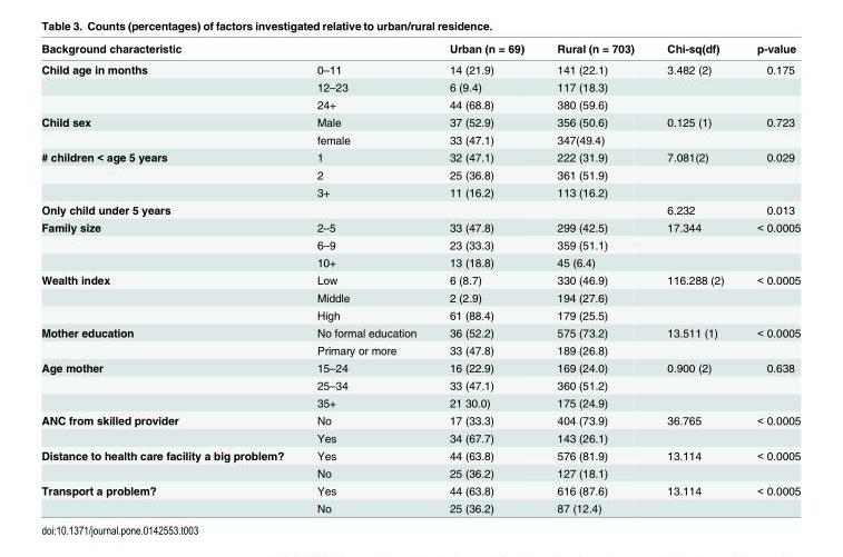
<table><thead><tr><td>Background characteristic</td><td></td><td>Urban (n = 69)</td><td>Rural (n = 703)</td><td>Chi-sq(df)</td><td>p-value</td></tr></thead><tbody><tr><td rowspan="3">Child age in months</td><td>0–11</td><td>14 (21.9)</td><td>141 (22.1)</td><td>3.482 (2)</td><td>0.175</td></tr><tr><td>12–23</td><td>6 (9.4)</td><td>117 (18.3)</td><td></td><td></td></tr><tr><td>24+</td><td>44 (68.8)</td><td>380 (59.6)</td><td></td><td></td></tr><tr><td rowspan="2">Child sex</td><td>Male</td><td>37 (52.9)</td><td>356 (50.6)</td><td>0.125 (1)</td><td>0.723</td></tr><tr><td>female</td><td>33 (47.1)</td><td>347(49.4)</td><td></td><td></td></tr><tr><td rowspan="3"># children &lt; age 5 years</td><td>1</td><td>32 (47.1)</td><td>222 (31.9)</td><td>7.081(2)</td><td>0.029</td></tr><tr><td>2</td><td>25 (36.8)</td><td>361 (51.9)</td><td></td><td></td></tr><tr><td>3+</td><td>11 (16.2)</td><td>113 (16.2)</td><td></td><td></td></tr><tr><td>Only child under 5 years</td><td></td><td></td><td></td><td>6.232</td><td>0.013</td></tr><tr><td rowspan="3">Family size</td><td>2–5</td><td>33 (47.8)</td><td>299 (42.5)</td><td>17.344</td><td>&lt; 0.0005</td></tr><tr><td>6–9</td><td>23 (33.3)</td><td>359 (51.1)</td><td></td><td></td></tr><tr><td>10+</td><td>13 (18.8)</td><td>45 (6.4)</td><td></td><td></td></tr><tr><td rowspan="3">Wealth index</td><td>Low</td><td>6 (8.7)</td><td>330 (46.9)</td><td>116.288 (2)</td><td>&lt; 0.0005</td></tr><tr><td>Middle</td><td>2 (2.9)</td><td>194 (27.6)</td><td></td><td></td></tr><tr><td>High</td><td>61 (88.4)</td><td>179 (25.5)</td><td></td><td></td></tr><tr><td rowspan="2">Mother education</td><td>No formal education</td><td>36 (52.2)</td><td>575 (73.2)</td><td>13.511 (1)</td><td>&lt; 0.0005</td></tr><tr><td>Primary or more</td><td>33 (47.8)</td><td>189 (26.8)</td><td></td><td></td></tr><tr><td rowspan="3">Age mother</td><td>15–24</td><td>16 (22.9)</td><td>169 (24.0)</td><td>0.900 (2)</td><td>0.638</td></tr><tr><td>25–34</td><td>33 (47.1)</td><td>360 (51.2)</td><td></td><td></td></tr><tr><td>35+</td><td>21 30.0)</td><td>175 (24.9)</td><td></td><td></td></tr><tr><td rowspan="2">ANC from skilled provider</td><td>No</td><td>17 (33.3)</td><td>404 (73.9)</td><td>36.765</td><td>&lt; 0.0005</td></tr><tr><td>Yes</td><td>34 (67.7)</td><td>143 (26.1)</td><td></td><td></td></tr><tr><td rowspan="2">Distance to health care facility a big problem?</td><td>Yes</td><td>44 (63.8)</td><td>576 (81.9)</td><td>13.114</td><td>&lt; 0.0005</td></tr><tr><td>No</td><td>25 (36.2)</td><td>127 (18.1)</td><td></td><td></td></tr><tr><td rowspan="2">Transport a problem?</td><td>Yes</td><td>44 (63.8)</td><td>616 (87.6)</td><td>13.114</td><td>&lt; 0.0005</td></tr><tr><td>No</td><td>25 (36.2)</td><td>87 (12.4)</td><td></td><td></td></tr></tbody></table>